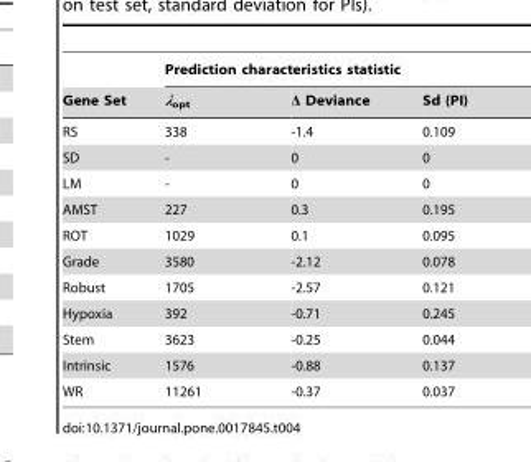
<table><thead><tr><td rowspan="2">Gene Set</td><td colspan="3">Prediction characteristics statistic</td></tr><tr><td>λ<sub>opt</sub></td><td>Δ Deviance</td><td>Sd (PI)</td></tr></thead><tbody><tr><td>RS</td><td>338</td><td>-1.4</td><td>0.109</td></tr><tr><td>SD</td><td>-</td><td>0</td><td>0</td></tr><tr><td>LM</td><td>-</td><td>0</td><td>0</td></tr><tr><td>AMST</td><td>227</td><td>0.3</td><td>0.195</td></tr><tr><td>ROT</td><td>1029</td><td>0.1</td><td>0.095</td></tr><tr><td>Grade</td><td>3580</td><td>-2.12</td><td>0.078</td></tr><tr><td>Robust</td><td>1705</td><td>-2.57</td><td>0.121</td></tr><tr><td>Hypoxia</td><td>392</td><td>-0.71</td><td>0.245</td></tr><tr><td>Stem</td><td>3623</td><td>-0.25</td><td>0.044</td></tr><tr><td>Intrinsic</td><td>1576</td><td>-0.88</td><td>0.137</td></tr><tr><td>WR</td><td>11261</td><td>-0.37</td><td>0.037</td></tr></tbody></table>